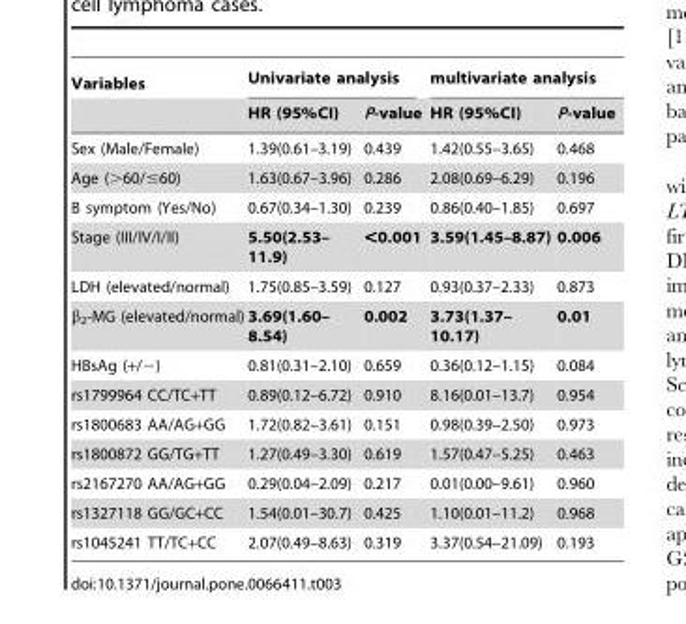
<table><thead><tr><td rowspan="2">Variables</td><td colspan="2">Univariate analysis</td><td colspan="2">multivariate analysis</td></tr><tr><td>HR (95%CI)</td><td>P-value</td><td>HR (95%CI)</td><td>P-value</td></tr></thead><tbody><tr><td>Sex (Male/Female)</td><td>1.39(0.61–3.19)</td><td>0.439</td><td>1.42(0.55–3.65)</td><td>0.468</td></tr><tr><td>Age (&gt;60/≤60)</td><td>1.63(0.67–3.96)</td><td>0.286</td><td>2.08(0.69–6.29)</td><td>0.196</td></tr><tr><td>B symptom (Yes/No)</td><td>0.67(0.34–1.30)</td><td>0.239</td><td>0.86(0.40–1.85)</td><td>0.697</td></tr><tr><td>Stage (III/IV/I/II)</td><td>5.50(2.53– 11.9)</td><td>&lt;0.001</td><td>3.59(1.45–8.87)</td><td>0.006</td></tr><tr><td>LDH (elevated/normal)</td><td>1.75(0.85–3.59)</td><td>0.127</td><td>0.93(0.37–2.33)</td><td>0.873</td></tr><tr><td>β<sub>2</sub>-MG (elevated/normal)</td><td>3.69(1.60– 8.54)</td><td>0.002</td><td>3.73(1.37– 10.17)</td><td>0.01</td></tr><tr><td>HBsAg (+/−)</td><td>0.81(0.31–2.10)</td><td>0.659</td><td>0.36(0.12–1.15)</td><td>0.084</td></tr><tr><td>rs1799964 CC/TC+TT</td><td>0.89(0.12–6.72)</td><td>0.910</td><td>8.16(0.01–13.7)</td><td>0.954</td></tr><tr><td>rs1800683 AA/AG+GG</td><td>1.72(0.82–3.61)</td><td>0.151</td><td>0.98(0.39–2.50)</td><td>0.973</td></tr><tr><td>rs1800872 GG/TG+TT</td><td>1.27(0.49–3.30)</td><td>0.619</td><td>1.57(0.47–5.25)</td><td>0.463</td></tr><tr><td>rs2167270 AA/AG+GG</td><td>0.29(0.04–2.09)</td><td>0.217</td><td>0.01(0.00–9.61)</td><td>0.960</td></tr><tr><td>rs1327118 GG/GC+CC</td><td>1.54(0.01–30.7)</td><td>0.425</td><td>1.10(0.01–11.2)</td><td>0.968</td></tr><tr><td>rs1045241 TT/TC+CC</td><td>2.07(0.49–8.63)</td><td>0.319</td><td>3.37(0.54–21.09)</td><td>0.193</td></tr></tbody></table>